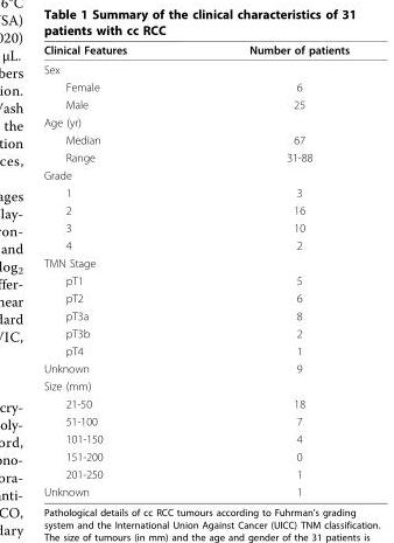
<table><thead><tr><td>Clinical Features</td><td>Number of patients</td></tr></thead><tbody><tr><td colspan="2">Sex</td></tr><tr><td>Female</td><td>6</td></tr><tr><td>Male</td><td>25</td></tr><tr><td colspan="2">Age (yr)</td></tr><tr><td>Median</td><td>67</td></tr><tr><td>Range</td><td>31-88</td></tr><tr><td colspan="2">Grade</td></tr><tr><td>1</td><td>3</td></tr><tr><td>2</td><td>16</td></tr><tr><td>3</td><td>10</td></tr><tr><td>4</td><td>2</td></tr><tr><td colspan="2">TMN Stage</td></tr><tr><td>pT1</td><td>5</td></tr><tr><td>pT2</td><td>6</td></tr><tr><td>pT3a</td><td>8</td></tr><tr><td>pT3b</td><td>2</td></tr><tr><td>pT4</td><td>1</td></tr><tr><td>Unknown</td><td>9</td></tr><tr><td colspan="2">Size (mm)</td></tr><tr><td>21-50</td><td>18</td></tr><tr><td>51-100</td><td>7</td></tr><tr><td>101-150</td><td>4</td></tr><tr><td>151-200</td><td>0</td></tr><tr><td>201-250</td><td>1</td></tr><tr><td>Unknown</td><td>1</td></tr></tbody></table>